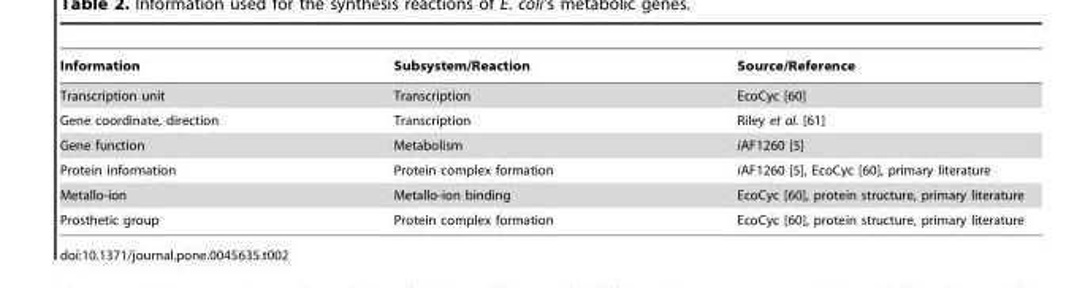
<table><thead><tr><td>Information</td><td>Subsystem/Reaction</td><td>Source/Reference</td></tr></thead><tbody><tr><td>Transcription unit</td><td>Transcription</td><td>EcoCyc [60]</td></tr><tr><td>Gene coordinate, direction</td><td>Transcription</td><td>Riley et al. [61]</td></tr><tr><td>Gene function</td><td>Metabolism</td><td>iAF1260 [5]</td></tr><tr><td>Protein information</td><td>Protein complex formation</td><td>iAF1260 [5], EcoCyc [60], primary literature</td></tr><tr><td>Metallo-ion</td><td>Metallo-ion binding</td><td>EcoCyc [60], protein structure, primary literature</td></tr><tr><td>Prosthetic group</td><td>Protein complex formation</td><td>EcoCyc [60], protein structure, primary literature</td></tr></tbody></table>